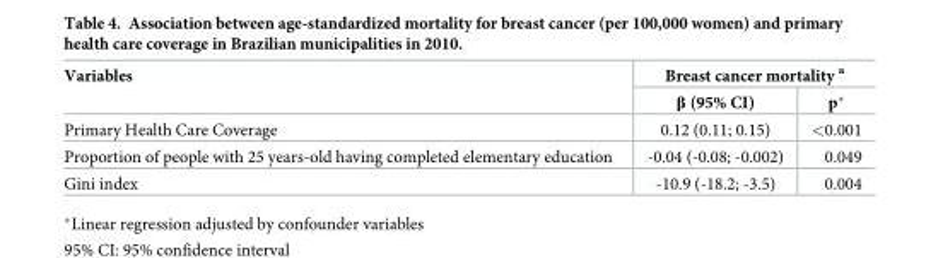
<table><thead><tr><td rowspan="2">Variables</td><td colspan="2">Breast cancer mortality <sup>a</sup></td></tr><tr><td>β (95% CI)</td><td>p*</td></tr></thead><tbody><tr><td>Primary Health Care Coverage</td><td>0.12 (0.11; 0.15)</td><td>&lt;0.001</td></tr><tr><td>Proportion of people with 25 years-old having completed elementary education</td><td>-0.04 (-0.08; -0.002)</td><td>0.049</td></tr><tr><td>Gini index</td><td>-10.9 (-18.2; -3.5)</td><td>0.004</td></tr></tbody></table>